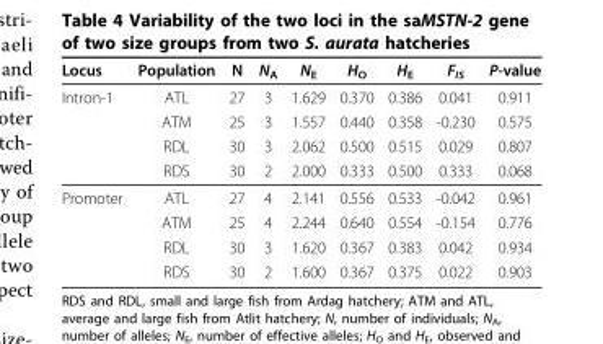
<table><thead><tr><td>Locus</td><td>Population</td><td>N</td><td>N<sub>A</sub></td><td>N<sub>E</sub></td><td>H<sub>O</sub></td><td>H<sub>E</sub></td><td>F<sub>IS</sub></td><td>P-value</td></tr></thead><tbody><tr><td rowspan="4">Intron-1</td><td>ATL</td><td>27</td><td>3</td><td>1.629</td><td>0.370</td><td>0.386</td><td>0.041</td><td>0.911</td></tr><tr><td>ATM</td><td>25</td><td>3</td><td>1.557</td><td>0.440</td><td>0.358</td><td>-0.230</td><td>0.575</td></tr><tr><td>RDL</td><td>30</td><td>3</td><td>2.062</td><td>0.500</td><td>0.515</td><td>0.029</td><td>0.807</td></tr><tr><td>RDS</td><td>30</td><td>2</td><td>2.000</td><td>0.333</td><td>0.500</td><td>0.333</td><td>0.068</td></tr><tr><td rowspan="4">Promoter</td><td>ATL</td><td>27</td><td>4</td><td>2.141</td><td>0.556</td><td>0.533</td><td>-0.042</td><td>0.961</td></tr><tr><td>ATM</td><td>25</td><td>4</td><td>2.244</td><td>0.640</td><td>0.554</td><td>-0.154</td><td>0.776</td></tr><tr><td>RDL</td><td>30</td><td>3</td><td>1.620</td><td>0.367</td><td>0.383</td><td>0.042</td><td>0.934</td></tr><tr><td>RDS</td><td>30</td><td>2</td><td>1.600</td><td>0.367</td><td>0.375</td><td>0.022</td><td>0.903</td></tr></tbody></table>